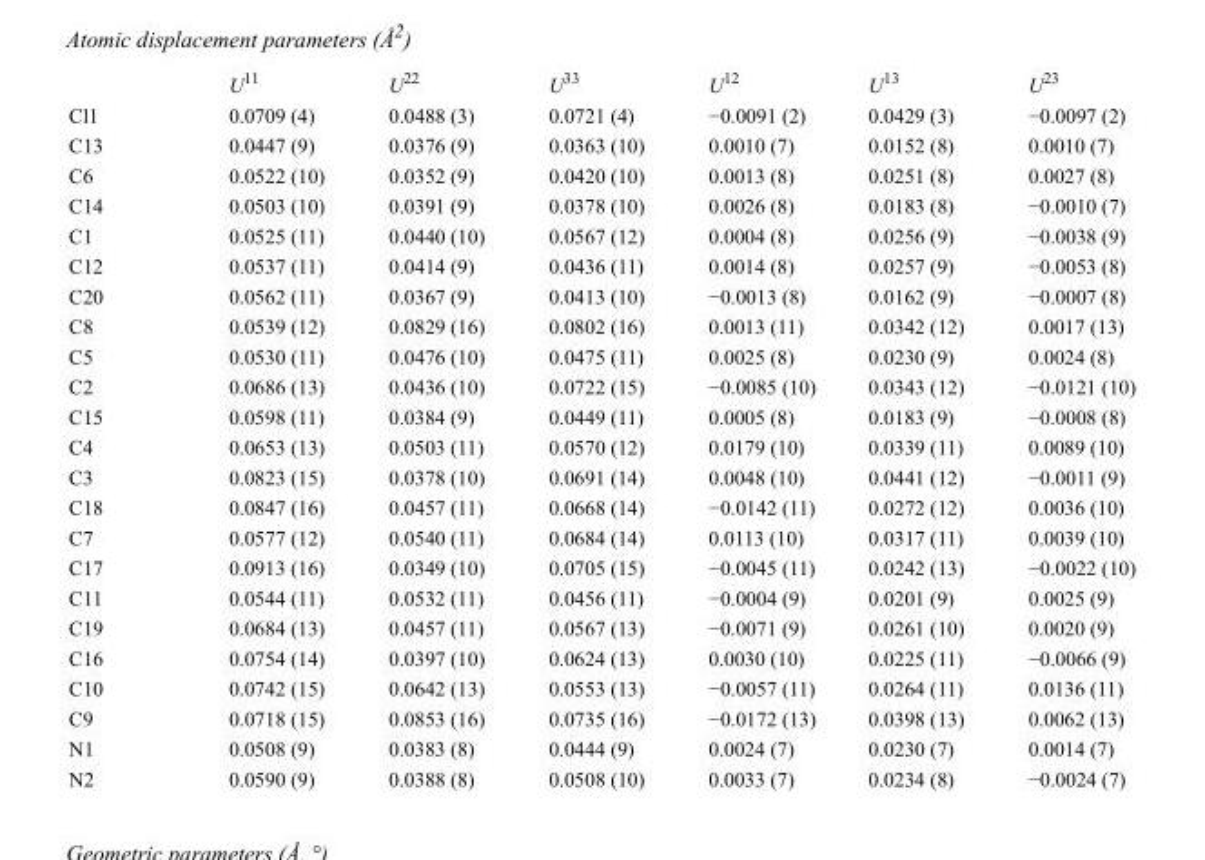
<table><thead><tr><td></td><td>U<sup>11</sup></td><td>U<sup>22</sup></td><td>U<sup>33</sup></td><td>U<sup>12</sup></td><td>U<sup>13</sup></td><td>U<sup>23</sup></td></tr></thead><tbody><tr><td>Cl1</td><td>0.0709 (4)</td><td>0.0488 (3)</td><td>0.0721 (4)</td><td>−0.0091 (2)</td><td>0.0429 (3)</td><td>−0.0097 (2)</td></tr><tr><td>C13</td><td>0.0447 (9)</td><td>0.0376 (9)</td><td>0.0363 (10)</td><td>0.0010 (7)</td><td>0.0152 (8)</td><td>0.0010 (7)</td></tr><tr><td>C6</td><td>0.0522 (10)</td><td>0.0352 (9)</td><td>0.0420 (10)</td><td>0.0013 (8)</td><td>0.0251 (8)</td><td>0.0027 (8)</td></tr><tr><td>C14</td><td>0.0503 (10)</td><td>0.0391 (9)</td><td>0.0378 (10)</td><td>0.0026 (8)</td><td>0.0183 (8)</td><td>−0.0010 (7)</td></tr><tr><td>C1</td><td>0.0525 (11)</td><td>0.0440 (10)</td><td>0.0567 (12)</td><td>0.0004 (8)</td><td>0.0256 (9)</td><td>−0.0038 (9)</td></tr><tr><td>C12</td><td>0.0537 (11)</td><td>0.0414 (9)</td><td>0.0436 (11)</td><td>0.0014 (8)</td><td>0.0257 (9)</td><td>−0.0053 (8)</td></tr><tr><td>C20</td><td>0.0562 (11)</td><td>0.0367 (9)</td><td>0.0413 (10)</td><td>−0.0013 (8)</td><td>0.0162 (9)</td><td>−0.0007 (8)</td></tr><tr><td>C8</td><td>0.0539 (12)</td><td>0.0829 (16)</td><td>0.0802 (16)</td><td>0.0013 (11)</td><td>0.0342 (12)</td><td>0.0017 (13)</td></tr><tr><td>C5</td><td>0.0530 (11)</td><td>0.0476 (10)</td><td>0.0475 (11)</td><td>0.0025 (8)</td><td>0.0230 (9)</td><td>0.0024 (8)</td></tr><tr><td>C2</td><td>0.0686 (13)</td><td>0.0436 (10)</td><td>0.0722 (15)</td><td>−0.0085 (10)</td><td>0.0343 (12)</td><td>−0.0121 (10)</td></tr><tr><td>C15</td><td>0.0598 (11)</td><td>0.0384 (9)</td><td>0.0449 (11)</td><td>0.0005 (8)</td><td>0.0183 (9)</td><td>−0.0008 (8)</td></tr><tr><td>C4</td><td>0.0653 (13)</td><td>0.0503 (11)</td><td>0.0570 (12)</td><td>0.0179 (10)</td><td>0.0339 (11)</td><td>0.0089 (10)</td></tr><tr><td>C3</td><td>0.0823 (15)</td><td>0.0378 (10)</td><td>0.0691 (14)</td><td>0.0048 (10)</td><td>0.0441 (12)</td><td>−0.0011 (9)</td></tr><tr><td>C18</td><td>0.0847 (16)</td><td>0.0457 (11)</td><td>0.0668 (14)</td><td>−0.0142 (11)</td><td>0.0272 (12)</td><td>0.0036 (10)</td></tr><tr><td>C7</td><td>0.0577 (12)</td><td>0.0540 (11)</td><td>0.0684 (14)</td><td>0.0113 (10)</td><td>0.0317 (11)</td><td>0.0039 (10)</td></tr><tr><td>C17</td><td>0.0913 (16)</td><td>0.0349 (10)</td><td>0.0705 (15)</td><td>−0.0045 (11)</td><td>0.0242 (13)</td><td>−0.0022 (10)</td></tr><tr><td>C11</td><td>0.0544 (11)</td><td>0.0532 (11)</td><td>0.0456 (11)</td><td>−0.0004 (9)</td><td>0.0201 (9)</td><td>0.0025 (9)</td></tr><tr><td>C19</td><td>0.0684 (13)</td><td>0.0457 (11)</td><td>0.0567 (13)</td><td>−0.0071 (9)</td><td>0.0261 (10)</td><td>0.0020 (9)</td></tr><tr><td>C16</td><td>0.0754 (14)</td><td>0.0397 (10)</td><td>0.0624 (13)</td><td>0.0030 (10)</td><td>0.0225 (11)</td><td>−0.0066 (9)</td></tr><tr><td>C10</td><td>0.0742 (15)</td><td>0.0642 (13)</td><td>0.0553 (13)</td><td>−0.0057 (11)</td><td>0.0264 (11)</td><td>0.0136 (11)</td></tr><tr><td>C9</td><td>0.0718 (15)</td><td>0.0853 (16)</td><td>0.0735 (16)</td><td>−0.0172 (13)</td><td>0.0398 (13)</td><td>0.0062 (13)</td></tr><tr><td>N1</td><td>0.0508 (9)</td><td>0.0383 (8)</td><td>0.0444 (9)</td><td>0.0024 (7)</td><td>0.0230 (7)</td><td>0.0014 (7)</td></tr><tr><td>N2</td><td>0.0590 (9)</td><td>0.0388 (8)</td><td>0.0508 (10)</td><td>0.0033 (7)</td><td>0.0234 (8)</td><td>−0.0024 (7)</td></tr></tbody></table>